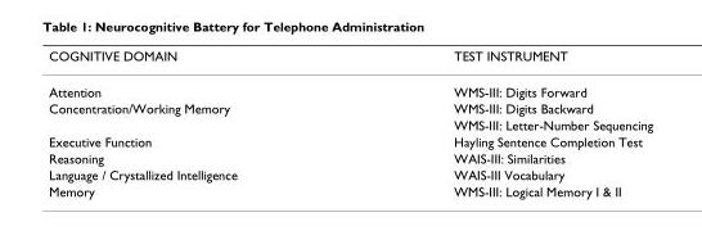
<table><thead><tr><td>COGNITIVE DOMAIN</td><td>TEST INSTRUMENT</td></tr></thead><tbody><tr><td>Attention</td><td>WMS-III: Digits Forward</td></tr><tr><td rowspan="2">Concentration/Working Memory</td><td>WMS-III: Digits Backward</td></tr><tr><td>WMS-III: Letter-Number Sequencing</td></tr><tr><td>Executive Function</td><td>Hayling Sentence Completion Test</td></tr><tr><td>Reasoning</td><td>WAIS-III: Similarities</td></tr><tr><td>Language / Crystallized Intelligence</td><td>WAIS-III Vocabulary</td></tr><tr><td>Memory</td><td>WMS-III: Logical Memory I &amp; II</td></tr></tbody></table>